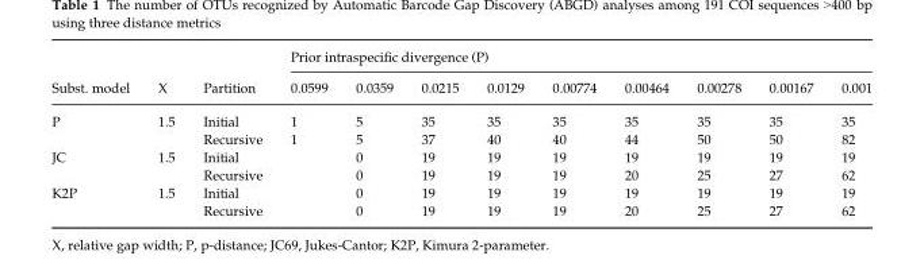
<table><thead><tr><td rowspan="2">Subst. model</td><td rowspan="2">X</td><td rowspan="2">Partition</td><td colspan="9">Prior intraspecific divergence (P)</td></tr><tr><td>0.0599</td><td>0.0359</td><td>0.0215</td><td>0.0129</td><td>0.00774</td><td>0.00464</td><td>0.00278</td><td>0.00167</td><td>0.001</td></tr></thead><tbody><tr><td rowspan="2">P</td><td rowspan="2">1.5</td><td>Initial</td><td>1</td><td>5</td><td>35</td><td>35</td><td>35</td><td>35</td><td>35</td><td>35</td><td>35</td></tr><tr><td>Recursive</td><td>1</td><td>5</td><td>37</td><td>40</td><td>40</td><td>44</td><td>50</td><td>50</td><td>82</td></tr><tr><td rowspan="2">JC</td><td rowspan="2">1.5</td><td>Initial</td><td></td><td>0</td><td>19</td><td>19</td><td>19</td><td>19</td><td>19</td><td>19</td><td>19</td></tr><tr><td>Recursive</td><td></td><td>0</td><td>19</td><td>19</td><td>19</td><td>20</td><td>25</td><td>27</td><td>62</td></tr><tr><td rowspan="2">K2P</td><td rowspan="2">1.5</td><td>Initial</td><td></td><td>0</td><td>19</td><td>19</td><td>19</td><td>19</td><td>19</td><td>19</td><td>19</td></tr><tr><td>Recursive</td><td></td><td>0</td><td>19</td><td>19</td><td>19</td><td>20</td><td>25</td><td>27</td><td>62</td></tr></tbody></table>